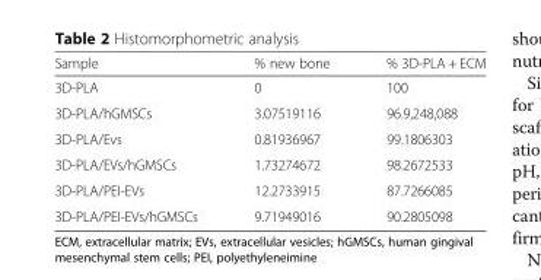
<table><thead><tr><td>Sample</td><td>% new bone</td><td>% 3D-PLA + ECM</td></tr></thead><tbody><tr><td>3D-PLA</td><td>0</td><td>100</td></tr><tr><td>3D-PLA/hGMSCs</td><td>3.07519116</td><td>96.9,248,088</td></tr><tr><td>3D-PLA/Evs</td><td>0.81936967</td><td>99.1806303</td></tr><tr><td>3D-PLA/EVs/hGMSCs</td><td>1.73274672</td><td>98.2672533</td></tr><tr><td>3D-PLA/PEI-EVs</td><td>12.2733915</td><td>87.7266085</td></tr><tr><td>3D-PLA/PEI-EVs/hGMSCs</td><td>9.71949016</td><td>90.2805098</td></tr></tbody></table>